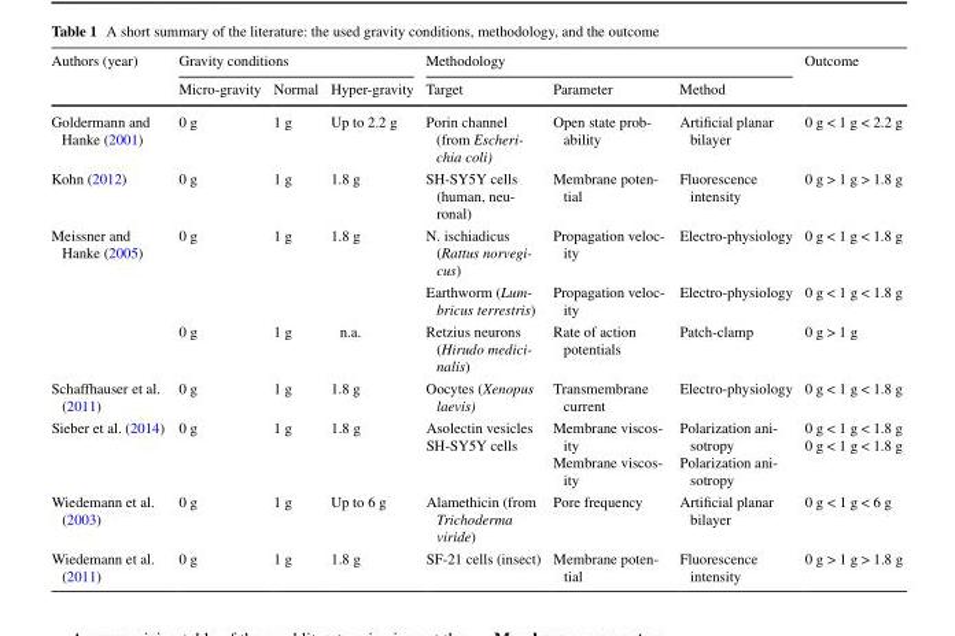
<table><thead><tr><td rowspan="2">Authors (year)</td><td colspan="3">Gravity conditions</td><td colspan="3">Methodology</td><td rowspan="2">Outcome</td></tr><tr><td>Micro-gravity</td><td>Normal</td><td>Hyper-gravity</td><td>Target</td><td>Parameter</td><td>Method</td></tr></thead><tbody><tr><td>Goldermann and Hanke (2001)</td><td>0 g</td><td>1 g</td><td>Up to 2.2 g</td><td>Porin channel (from Escheri- chia coli)</td><td>Open state prob- ability</td><td>Artificial planar bilayer</td><td>0 g &lt; 1 g &lt; 2.2 g</td></tr><tr><td>Kohn (2012)</td><td>0 g</td><td>1 g</td><td>1.8 g</td><td>SH-SY5Y cells (human, neu- ronal)</td><td>Membrane poten- tial</td><td>Fluorescence intensity</td><td>0 g &gt; 1 g &gt; 1.8 g</td></tr><tr><td rowspan="3">Meissner and Hanke (2005)</td><td rowspan="2">0 g</td><td rowspan="2">1 g</td><td rowspan="2">1.8 g</td><td>N. ischiadicus (Rattus norvegi- cus)</td><td>Propagation veloc- ity</td><td>Electro-physiology</td><td>0 g &lt; 1 g &lt; 1.8 g</td></tr><tr><td>Earthworm (Lum- bricus terrestris)</td><td>Propagation veloc- ity</td><td>Electro-physiology</td><td>0 g &lt; 1 g &lt; 1.8 g</td></tr><tr><td>0 g</td><td>1 g</td><td>n.a.</td><td>Retzius neurons (Hirudo medici- nalis)</td><td>Rate of action potentials</td><td>Patch-clamp</td><td>0 g &gt; 1 g</td></tr><tr><td>Schaffhauser et al. (2011)</td><td>0 g</td><td>1 g</td><td>1.8 g</td><td>Oocytes (Xenopus laevis)</td><td>Transmembrane current</td><td>Electro-physiology</td><td>0 g &lt; 1 g &lt; 1.8 g</td></tr><tr><td>Sieber et al. (2014)</td><td>0 g</td><td>1 g</td><td>1.8 g</td><td>Asolectin vesicles SH-SY5Y cells</td><td>Membrane viscos- ity Membrane viscos- ity</td><td>Polarization ani- sotropy Polarization ani- sotropy</td><td>0 g &lt; 1 g &lt; 1.8 g 0 g &lt; 1 g &lt; 1.8 g</td></tr><tr><td>Wiedemann et al. (2003)</td><td>0 g</td><td>1 g</td><td>Up to 6 g</td><td>Alamethicin (from Trichoderma viride)</td><td>Pore frequency</td><td>Artificial planar bilayer</td><td>0 g &lt; 1 g &lt; 6 g</td></tr><tr><td>Wiedemann et al. (2011)</td><td>0 g</td><td>1 g</td><td>1.8 g</td><td>SF-21 cells (insect)</td><td>Membrane poten- tial</td><td>Fluorescence intensity</td><td>0 g &gt; 1 g &gt; 1.8 g</td></tr></tbody></table>